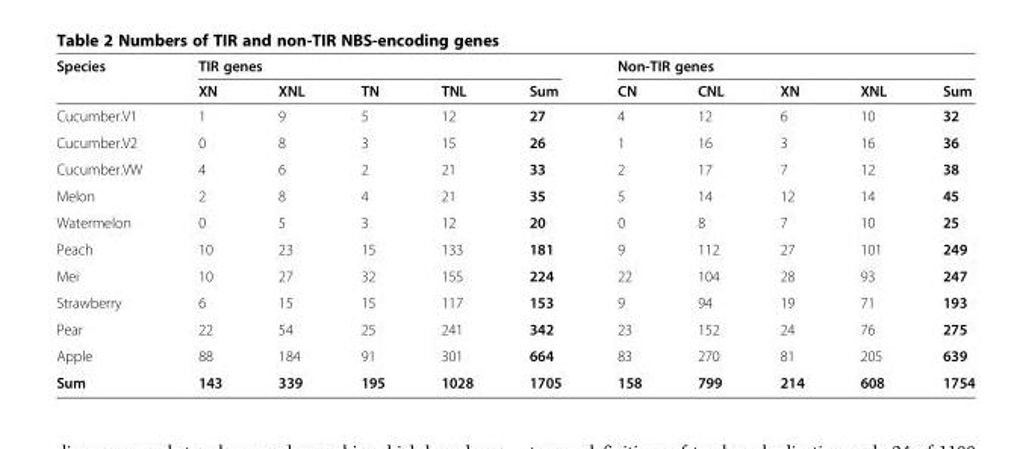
<table><thead><tr><td rowspan="2">Species</td><td colspan="5">TIR genes</td><td colspan="5">Non-TIR genes</td></tr><tr><td>XN</td><td>XNL</td><td>TN</td><td>TNL</td><td>Sum</td><td>CN</td><td>CNL</td><td>XN</td><td>XNL</td><td>Sum</td></tr></thead><tbody><tr><td>Cucumber.V1</td><td>1</td><td>9</td><td>5</td><td>12</td><td>27</td><td>4</td><td>12</td><td>6</td><td>10</td><td>32</td></tr><tr><td>Cucumber.V2</td><td>0</td><td>8</td><td>3</td><td>15</td><td>26</td><td>1</td><td>16</td><td>3</td><td>16</td><td>36</td></tr><tr><td>Cucumber.VW</td><td>4</td><td>6</td><td>2</td><td>21</td><td>33</td><td>2</td><td>17</td><td>7</td><td>12</td><td>38</td></tr><tr><td>Melon</td><td>2</td><td>8</td><td>4</td><td>21</td><td>35</td><td>5</td><td>14</td><td>12</td><td>14</td><td>45</td></tr><tr><td>Watermelon</td><td>0</td><td>5</td><td>3</td><td>12</td><td>20</td><td>0</td><td>8</td><td>7</td><td>10</td><td>25</td></tr><tr><td>Peach</td><td>10</td><td>23</td><td>15</td><td>133</td><td>181</td><td>9</td><td>112</td><td>27</td><td>101</td><td>249</td></tr><tr><td>Mei</td><td>10</td><td>27</td><td>32</td><td>155</td><td>224</td><td>22</td><td>104</td><td>28</td><td>93</td><td>247</td></tr><tr><td>Strawberry</td><td>6</td><td>15</td><td>15</td><td>117</td><td>153</td><td>9</td><td>94</td><td>19</td><td>71</td><td>193</td></tr><tr><td>Pear</td><td>22</td><td>54</td><td>25</td><td>241</td><td>342</td><td>23</td><td>152</td><td>24</td><td>76</td><td>275</td></tr><tr><td>Apple</td><td>88</td><td>184</td><td>91</td><td>301</td><td>664</td><td>83</td><td>270</td><td>81</td><td>205</td><td>639</td></tr><tr><td>Sum</td><td>143</td><td>339</td><td>195</td><td>1028</td><td>1705</td><td>158</td><td>799</td><td>214</td><td>608</td><td>1754</td></tr></tbody></table>